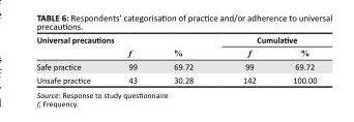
<table><thead><tr><td rowspan="2">Universal precautions</td><td rowspan="2">f</td><td rowspan="2">%</td><td colspan="2">Cumulative</td></tr><tr><td>f</td><td>%</td></tr></thead><tbody><tr><td>Safe practice</td><td>99</td><td>69.72</td><td>99</td><td>69.72</td></tr><tr><td>Unsafe practice</td><td>43</td><td>30.28</td><td>142</td><td>100.00</td></tr></tbody></table>